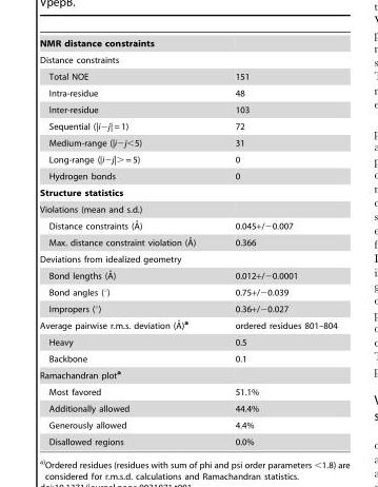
<table><tbody><tr><td colspan="2">NMR distance constraints</td></tr><tr><td colspan="2">Distance constraints</td></tr><tr><td>Total NOE</td><td>151</td></tr><tr><td>Intra-residue</td><td>48</td></tr><tr><td>Inter-residue</td><td>103</td></tr><tr><td>Sequential (|i−j| = 1)</td><td>72</td></tr><tr><td>Medium-range (|i−j&lt;5)</td><td>31</td></tr><tr><td>Long-range (|i−j|&gt; = 5)</td><td>0</td></tr><tr><td>Hydrogen bonds</td><td>0</td></tr><tr><td colspan="2">Structure statistics</td></tr><tr><td colspan="2">Violations (mean and s.d.)</td></tr><tr><td>Distance constraints (A˚)</td><td>0.045+/−0.007</td></tr><tr><td>Max. distance constraint violation (A˚)</td><td>0.366</td></tr><tr><td colspan="2">Deviations from idealized geometry</td></tr><tr><td>Bond lengths (A˚)</td><td>0.012+/−0.0001</td></tr><tr><td>Bond angles (°)</td><td>0.75+/−0.039</td></tr><tr><td>Impropers (°)</td><td>0.36+/−0.027</td></tr><tr><td>Average pairwise r.m.s. deviation (A˚)a</td><td>ordered residues 801–804</td></tr><tr><td>Heavy</td><td>0.5</td></tr><tr><td>Backbone</td><td>0.1</td></tr><tr><td colspan="2">Ramachandran plot<sup>a</sup></td></tr><tr><td>Most favored</td><td>51.1%</td></tr><tr><td>Additionally allowed</td><td>44.4%</td></tr><tr><td>Generously allowed</td><td>4.4%</td></tr><tr><td>Disallowed regions</td><td>0.0%</td></tr></tbody></table>